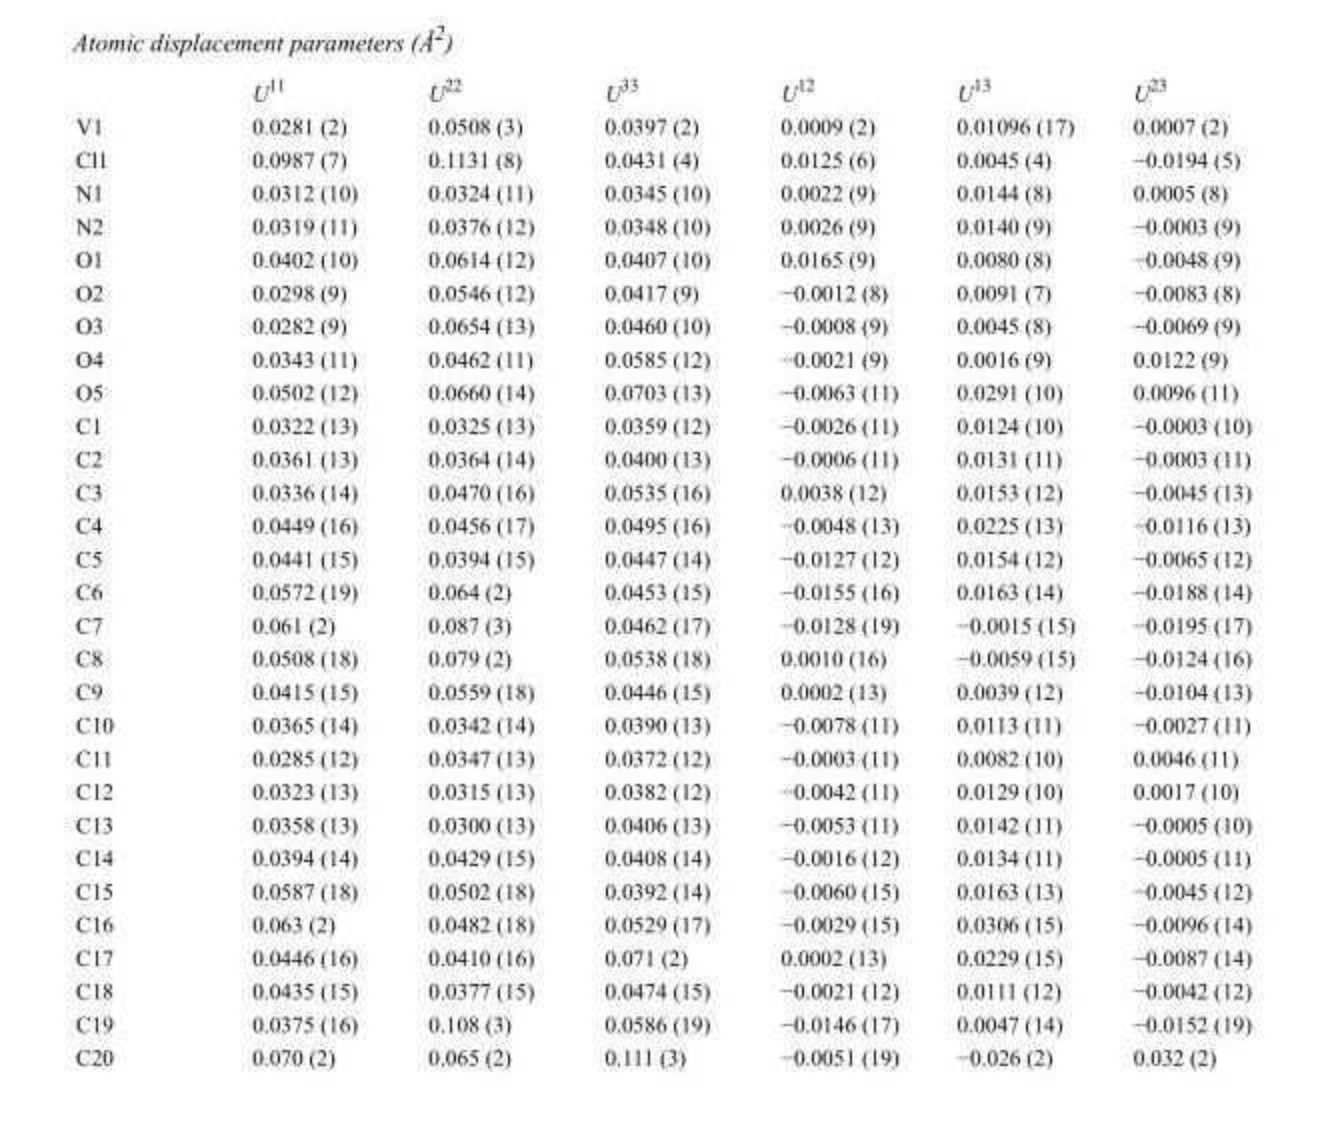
<table><thead><tr><td></td><td>U<sup>11</sup></td><td>U<sup>22</sup></td><td>U<sup>33</sup></td><td>U<sup>12</sup></td><td>U<sup>13</sup></td><td>U<sup>23</sup></td></tr></thead><tbody><tr><td>V1</td><td>0.0281 (2)</td><td>0.0508 (3)</td><td>0.0397 (2)</td><td>0.0009 (2)</td><td>0.01096 (17)</td><td>0.0007 (2)</td></tr><tr><td>Cl1</td><td>0.0987 (7)</td><td>0.1131 (8)</td><td>0.0431 (4)</td><td>0.0125 (6)</td><td>0.0045 (4)</td><td>−0.0194 (5)</td></tr><tr><td>N1</td><td>0.0312 (10)</td><td>0.0324 (11)</td><td>0.0345 (10)</td><td>0.0022 (9)</td><td>0.0144 (8)</td><td>0.0005 (8)</td></tr><tr><td>N2</td><td>0.0319 (11)</td><td>0.0376 (12)</td><td>0.0348 (10)</td><td>0.0026 (9)</td><td>0.0140 (9)</td><td>−0.0003 (9)</td></tr><tr><td>O1</td><td>0.0402 (10)</td><td>0.0614 (12)</td><td>0.0407 (10)</td><td>0.0165 (9)</td><td>0.0080 (8)</td><td>−0.0048 (9)</td></tr><tr><td>O2</td><td>0.0298 (9)</td><td>0.0546 (12)</td><td>0.0417 (9)</td><td>−0.0012 (8)</td><td>0.0091 (7)</td><td>−0.0083 (8)</td></tr><tr><td>O3</td><td>0.0282 (9)</td><td>0.0654 (13)</td><td>0.0460 (10)</td><td>−0.0008 (9)</td><td>0.0045 (8)</td><td>−0.0069 (9)</td></tr><tr><td>O4</td><td>0.0343 (11)</td><td>0.0462 (11)</td><td>0.0585 (12)</td><td>−0.0021 (9)</td><td>0.0016 (9)</td><td>0.0122 (9)</td></tr><tr><td>O5</td><td>0.0502 (12)</td><td>0.0660 (14)</td><td>0.0703 (13)</td><td>−0.0063 (11)</td><td>0.0291 (10)</td><td>0.0096 (11)</td></tr><tr><td>C1</td><td>0.0322 (13)</td><td>0.0325 (13)</td><td>0.0359 (12)</td><td>−0.0026 (11)</td><td>0.0124 (10)</td><td>−0.0003 (10)</td></tr><tr><td>C2</td><td>0.0361 (13)</td><td>0.0364 (14)</td><td>0.0400 (13)</td><td>−0.0006 (11)</td><td>0.0131 (11)</td><td>−0.0003 (11)</td></tr><tr><td>C3</td><td>0.0336 (14)</td><td>0.0470 (16)</td><td>0.0535 (16)</td><td>0.0038 (12)</td><td>0.0153 (12)</td><td>−0.0045 (13)</td></tr><tr><td>C4</td><td>0.0449 (16)</td><td>0.0456 (17)</td><td>0.0495 (16)</td><td>−0.0048 (13)</td><td>0.0225 (13)</td><td>−0.0116 (13)</td></tr><tr><td>C5</td><td>0.0441 (15)</td><td>0.0394 (15)</td><td>0.0447 (14)</td><td>−0.0127 (12)</td><td>0.0154 (12)</td><td>−0.0065 (12)</td></tr><tr><td>C6</td><td>0.0572 (19)</td><td>0.064 (2)</td><td>0.0453 (15)</td><td>−0.0155 (16)</td><td>0.0163 (14)</td><td>−0.0188 (14)</td></tr><tr><td>C7</td><td>0.061 (2)</td><td>0.087 (3)</td><td>0.0462 (17)</td><td>−0.0128 (19)</td><td>−0.0015 (15)</td><td>−0.0195 (17)</td></tr><tr><td>C8</td><td>0.0508 (18)</td><td>0.079 (2)</td><td>0.0538 (18)</td><td>0.0010 (16)</td><td>−0.0059 (15)</td><td>−0.0124 (16)</td></tr><tr><td>C9</td><td>0.0415 (15)</td><td>0.0559 (18)</td><td>0.0446 (15)</td><td>0.0002 (13)</td><td>0.0039 (12)</td><td>−0.0104 (13)</td></tr><tr><td>C10</td><td>0.0365 (14)</td><td>0.0342 (14)</td><td>0.0390 (13)</td><td>−0.0078 (11)</td><td>0.0113 (11)</td><td>−0.0027 (11)</td></tr><tr><td>C11</td><td>0.0285 (12)</td><td>0.0347 (13)</td><td>0.0372 (12)</td><td>−0.0003 (11)</td><td>0.0082 (10)</td><td>0.0046 (11)</td></tr><tr><td>C12</td><td>0.0323 (13)</td><td>0.0315 (13)</td><td>0.0382 (12)</td><td>−0.0042 (11)</td><td>0.0129 (10)</td><td>0.0017 (10)</td></tr><tr><td>C13</td><td>0.0358 (13)</td><td>0.0300 (13)</td><td>0.0406 (13)</td><td>−0.0053 (11)</td><td>0.0142 (11)</td><td>−0.0005 (10)</td></tr><tr><td>C14</td><td>0.0394 (14)</td><td>0.0429 (15)</td><td>0.0408 (14)</td><td>−0.0016 (12)</td><td>0.0134 (11)</td><td>−0.0005 (11)</td></tr><tr><td>C15</td><td>0.0587 (18)</td><td>0.0502 (18)</td><td>0.0392 (14)</td><td>−0.0060 (15)</td><td>0.0163 (13)</td><td>−0.0045 (12)</td></tr><tr><td>C16</td><td>0.063 (2)</td><td>0.0482 (18)</td><td>0.0529 (17)</td><td>−0.0029 (15)</td><td>0.0306 (15)</td><td>−0.0096 (14)</td></tr><tr><td>C17</td><td>0.0446 (16)</td><td>0.0410 (16)</td><td>0.071 (2)</td><td>0.0002 (13)</td><td>0.0229 (15)</td><td>−0.0087 (14)</td></tr><tr><td>C18</td><td>0.0435 (15)</td><td>0.0377 (15)</td><td>0.0474 (15)</td><td>−0.0021 (12)</td><td>0.0111 (12)</td><td>−0.0042 (12)</td></tr><tr><td>C19</td><td>0.0375 (16)</td><td>0.108 (3)</td><td>0.0586 (19)</td><td>−0.0146 (17)</td><td>0.0047 (14)</td><td>−0.0152 (19)</td></tr><tr><td>C20</td><td>0.070 (2)</td><td>0.065 (2)</td><td>0.111 (3)</td><td>−0.0051 (19)</td><td>−0.026 (2)</td><td>0.032 (2)</td></tr></tbody></table>